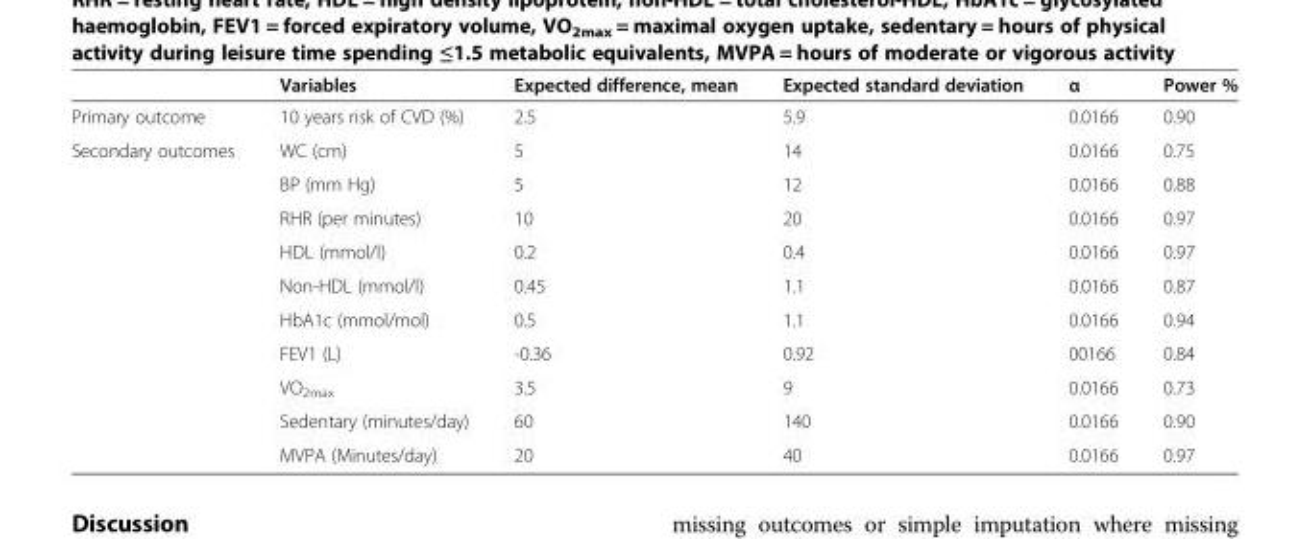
<table><thead><tr><td></td><td>Variables</td><td>Expected difference, mean</td><td>Expected standard deviation</td><td>α</td><td>Power %</td></tr></thead><tbody><tr><td>Primary outcome</td><td>10 years risk of CVD (%)</td><td>2.5</td><td>5.9</td><td>0.0166</td><td>0.90</td></tr><tr><td rowspan="10">Secondary outcomes</td><td>WC (cm)</td><td>5</td><td>14</td><td>0.0166</td><td>0.75</td></tr><tr><td>BP (mm Hg)</td><td>5</td><td>12</td><td>0.0166</td><td>0.88</td></tr><tr><td>RHR (per minutes)</td><td>10</td><td>20</td><td>0.0166</td><td>0.97</td></tr><tr><td>HDL (mmol/l)</td><td>0.2</td><td>0.4</td><td>0.0166</td><td>0.97</td></tr><tr><td>Non-HDL (mmol/l)</td><td>0.45</td><td>1.1</td><td>0.0166</td><td>0.87</td></tr><tr><td>HbA1c (mmol/mol)</td><td>0.5</td><td>1.1</td><td>0.0166</td><td>0.94</td></tr><tr><td>FEV1 (L)</td><td>-0.36</td><td>0.92</td><td>00166</td><td>0.84</td></tr><tr><td>VO<sub>2max</sub></td><td>3.5</td><td>9</td><td>0.0166</td><td>0.73</td></tr><tr><td>Sedentary (minutes/day)</td><td>60</td><td>140</td><td>0.0166</td><td>0.90</td></tr><tr><td>MVPA (Minutes/day)</td><td>20</td><td>40</td><td>0.0166</td><td>0.97</td></tr></tbody></table>